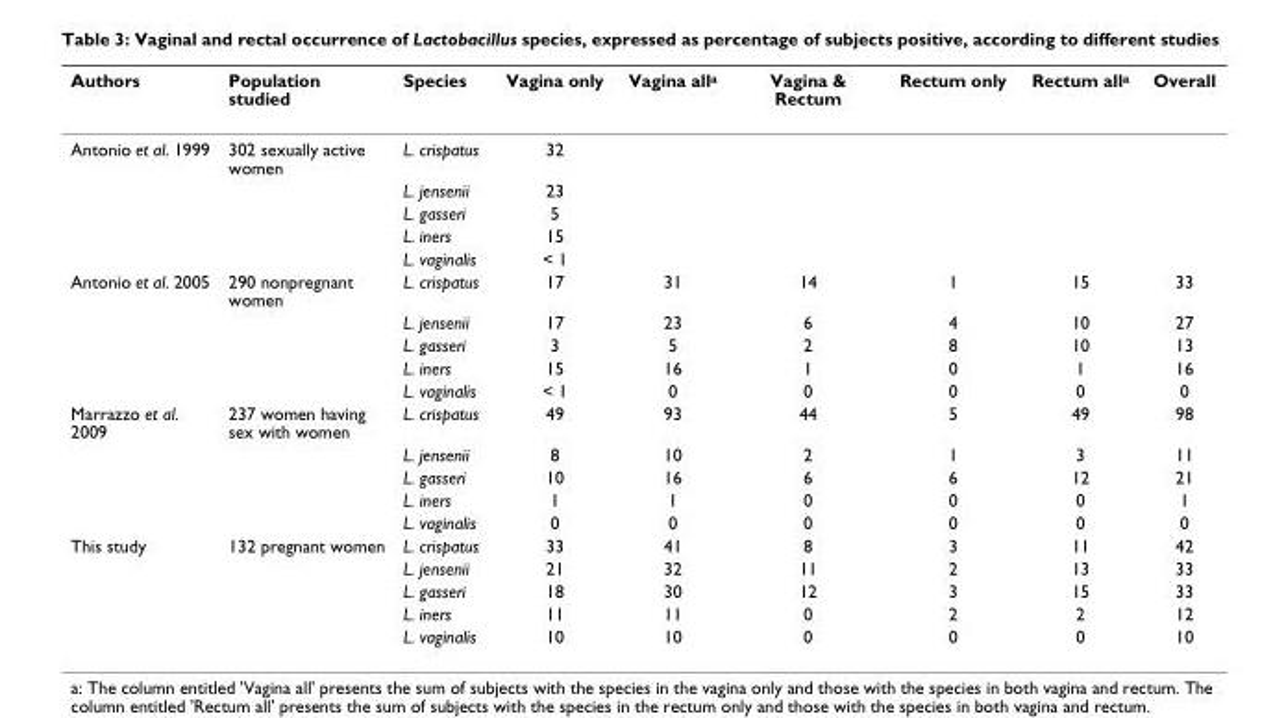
<table><thead><tr><td>Authors</td><td>Population studied</td><td>Species</td><td>Vagina only</td><td>Vagina all<sup>a</sup></td><td>Vagina &amp; Rectum</td><td>Rectum only</td><td>Rectum all<sup>a</sup></td><td>Overall</td></tr></thead><tbody><tr><td rowspan="5">Antonio et al. 1999</td><td>302 sexually active women</td><td>L. crispatus</td><td>32</td><td></td><td></td><td></td><td></td><td></td></tr><tr><td></td><td>L. jensenii</td><td>23</td><td></td><td></td><td></td><td></td><td></td></tr><tr><td></td><td>L. gasseri</td><td>5</td><td></td><td></td><td></td><td></td><td></td></tr><tr><td></td><td>L. iners</td><td>15</td><td></td><td></td><td></td><td></td><td></td></tr><tr><td></td><td>L. vaginalis</td><td>&lt; 1</td><td></td><td></td><td></td><td></td><td></td></tr><tr><td rowspan="5">Antonio et al. 2005</td><td>290 nonpregnant women</td><td>L. crispatus</td><td>17</td><td>31</td><td>14</td><td>1</td><td>15</td><td>33</td></tr><tr><td></td><td>L. jensenii</td><td>17</td><td>23</td><td>6</td><td>4</td><td>10</td><td>27</td></tr><tr><td></td><td>L. gasseri</td><td>3</td><td>5</td><td>2</td><td>8</td><td>10</td><td>13</td></tr><tr><td></td><td>L. iners</td><td>15</td><td>16</td><td>1</td><td>0</td><td>1</td><td>16</td></tr><tr><td></td><td>L. vaginalis</td><td>&lt; 1</td><td>0</td><td>0</td><td>0</td><td>0</td><td>0</td></tr><tr><td rowspan="5">Marrazzo et al. 2009</td><td>237 women having sex with women</td><td>L. crispatus</td><td>49</td><td>93</td><td>44</td><td>5</td><td>49</td><td>98</td></tr><tr><td></td><td>L. jensenii</td><td>8</td><td>10</td><td>2</td><td>1</td><td>3</td><td>11</td></tr><tr><td></td><td>L. gasseri</td><td>10</td><td>16</td><td>6</td><td>6</td><td>12</td><td>21</td></tr><tr><td></td><td>L. iners</td><td>1</td><td>1</td><td>0</td><td>0</td><td>0</td><td>1</td></tr><tr><td></td><td>L. vaginalis</td><td>0</td><td>0</td><td>0</td><td>0</td><td>0</td><td>0</td></tr><tr><td rowspan="5">This study</td><td>132 pregnant women</td><td>L. crispatus</td><td>33</td><td>41</td><td>8</td><td>3</td><td>11</td><td>42</td></tr><tr><td></td><td>L. jensenii</td><td>21</td><td>32</td><td>11</td><td>2</td><td>13</td><td>33</td></tr><tr><td></td><td>L. gasseri</td><td>18</td><td>30</td><td>12</td><td>3</td><td>15</td><td>33</td></tr><tr><td></td><td>L. iners</td><td>11</td><td>11</td><td>0</td><td>2</td><td>2</td><td>12</td></tr><tr><td></td><td>L. vaginalis</td><td>10</td><td>10</td><td>0</td><td>0</td><td>0</td><td>10</td></tr></tbody></table>